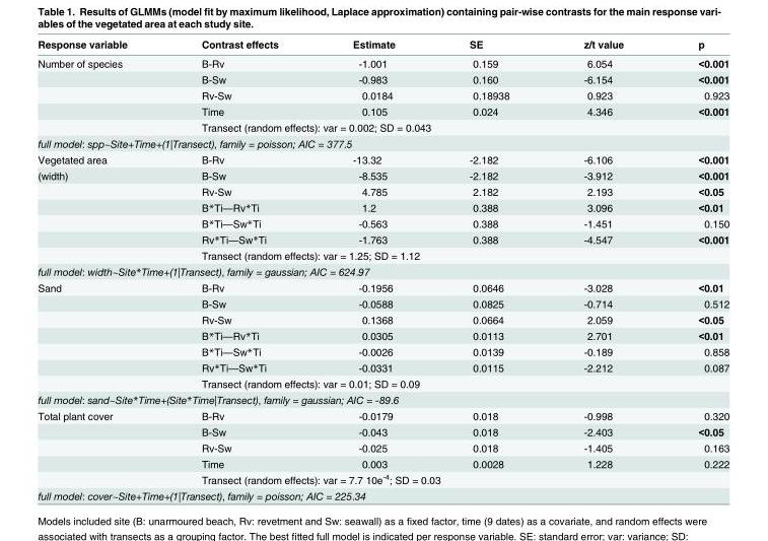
<table><thead><tr><td>Response variable</td><td>Contrast effects</td><td>Estimate</td><td>SE</td><td>z/t value</td><td>p</td></tr></thead><tbody><tr><td rowspan="5">Number of species</td><td>B-Rv</td><td>-1.001</td><td>0.159</td><td>6.054</td><td>&lt;0.001</td></tr><tr><td>B-Sw</td><td>-0.983</td><td>0.160</td><td>-6.154</td><td>&lt;0.001</td></tr><tr><td>Rv-Sw</td><td>0.0184</td><td>0.18938</td><td>0.923</td><td>0.923</td></tr><tr><td>Time</td><td>0.105</td><td>0.024</td><td>4.346</td><td>&lt;0.001</td></tr><tr><td colspan="4">Transect (random effects): var = 0.002; SD = 0.043</td><td></td></tr><tr><td colspan="6">full model: spp~Site+Time+(1|Transect), family = poisson; AIC = 377.5</td></tr><tr><td>Vegetated area</td><td>B-Rv</td><td>-13.32</td><td>-2.182</td><td>-6.106</td><td>&lt;0.001</td></tr><tr><td rowspan="6">(width)</td><td>B-Sw</td><td>-8.535</td><td>-2.182</td><td>-3.912</td><td>&lt;0.001</td></tr><tr><td>Rv-Sw</td><td>4.785</td><td>2.182</td><td>2.193</td><td>&lt;0.05</td></tr><tr><td>B*Ti—Rv*Ti</td><td>1.2</td><td>0.388</td><td>3.096</td><td>&lt;0.01</td></tr><tr><td>B*Ti—Sw*Ti</td><td>-0.563</td><td>0.388</td><td>-1.451</td><td>0.150</td></tr><tr><td>Rv*Ti—Sw*Ti</td><td>-1.763</td><td>0.388</td><td>-4.547</td><td>&lt;0.001</td></tr><tr><td colspan="4">Transect (random effects): var = 1.25; SD = 1.12</td><td></td></tr><tr><td colspan="6">full model: width~Site*Time+(1|Transect), family = gaussian; AIC = 624.97</td></tr><tr><td rowspan="7">Sand</td><td>B-Rv</td><td>-0.1956</td><td>0.0646</td><td>-3.028</td><td>&lt;0.01</td></tr><tr><td>B-Sw</td><td>-0.0588</td><td>0.0825</td><td>-0.714</td><td>0.512</td></tr><tr><td>Rv-Sw</td><td>0.1368</td><td>0.0664</td><td>2.059</td><td>&lt;0.05</td></tr><tr><td>B*Ti—Rv*Ti</td><td>0.0305</td><td>0.0113</td><td>2.701</td><td>&lt;0.01</td></tr><tr><td>B*Ti—Sw*Ti</td><td>-0.0026</td><td>0.0139</td><td>-0.189</td><td>0.858</td></tr><tr><td>Rv*Ti—Sw*Ti</td><td>-0.0331</td><td>0.0115</td><td>-2.212</td><td>0.087</td></tr><tr><td colspan="4">Transect (random effects): var = 0.01; SD = 0.09</td><td></td></tr><tr><td colspan="6">full model: sand~Site*Time+(Site*Time|Transect), family = gaussian; AIC = -89.6</td></tr><tr><td rowspan="5">Total plant cover</td><td>B-Rv</td><td>-0.0179</td><td>0.018</td><td>-0.998</td><td>0.320</td></tr><tr><td>B-Sw</td><td>-0.043</td><td>0.018</td><td>-2.403</td><td>&lt;0.05</td></tr><tr><td>Rv-Sw</td><td>-0.025</td><td>0.018</td><td>-1.405</td><td>0.163</td></tr><tr><td>Time</td><td>0.003</td><td>0.0028</td><td>1.228</td><td>0.222</td></tr><tr><td colspan="4">Transect (random effects): var = 7.7 10e<sup>-4</sup>; SD = 0.03</td><td></td></tr><tr><td colspan="6">full model: cover~Site+Time+(1|Transect), family = poisson; AIC = 225.34</td></tr></tbody></table>